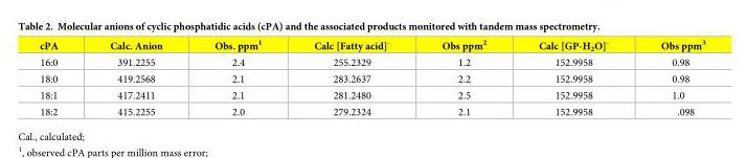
<table><thead><tr><td>cPA</td><td>Calc. Anion</td><td>Obs. ppm<sup>1</sup></td><td>Calc [Fatty acid]<sup>-</sup></td><td>Obs ppm<sup>2</sup></td><td>Calc [GP-H<sub>2</sub>O]<sup>-</sup></td><td>Obs ppm<sup>3</sup></td></tr></thead><tbody><tr><td>16:0</td><td>391.2255</td><td>2.4</td><td>255.2329</td><td>1.2</td><td>152.9958</td><td>0.98</td></tr><tr><td>18:0</td><td>419.2568</td><td>2.1</td><td>283.2637</td><td>2.2</td><td>152.9958</td><td>0.98</td></tr><tr><td>18:1</td><td>417.2411</td><td>2.1</td><td>281.2480</td><td>2.5</td><td>152.9958</td><td>1.0</td></tr><tr><td>18:2</td><td>415.2255</td><td>2.0</td><td>279.2324</td><td>2.1</td><td>152.9958</td><td>.098</td></tr></tbody></table>